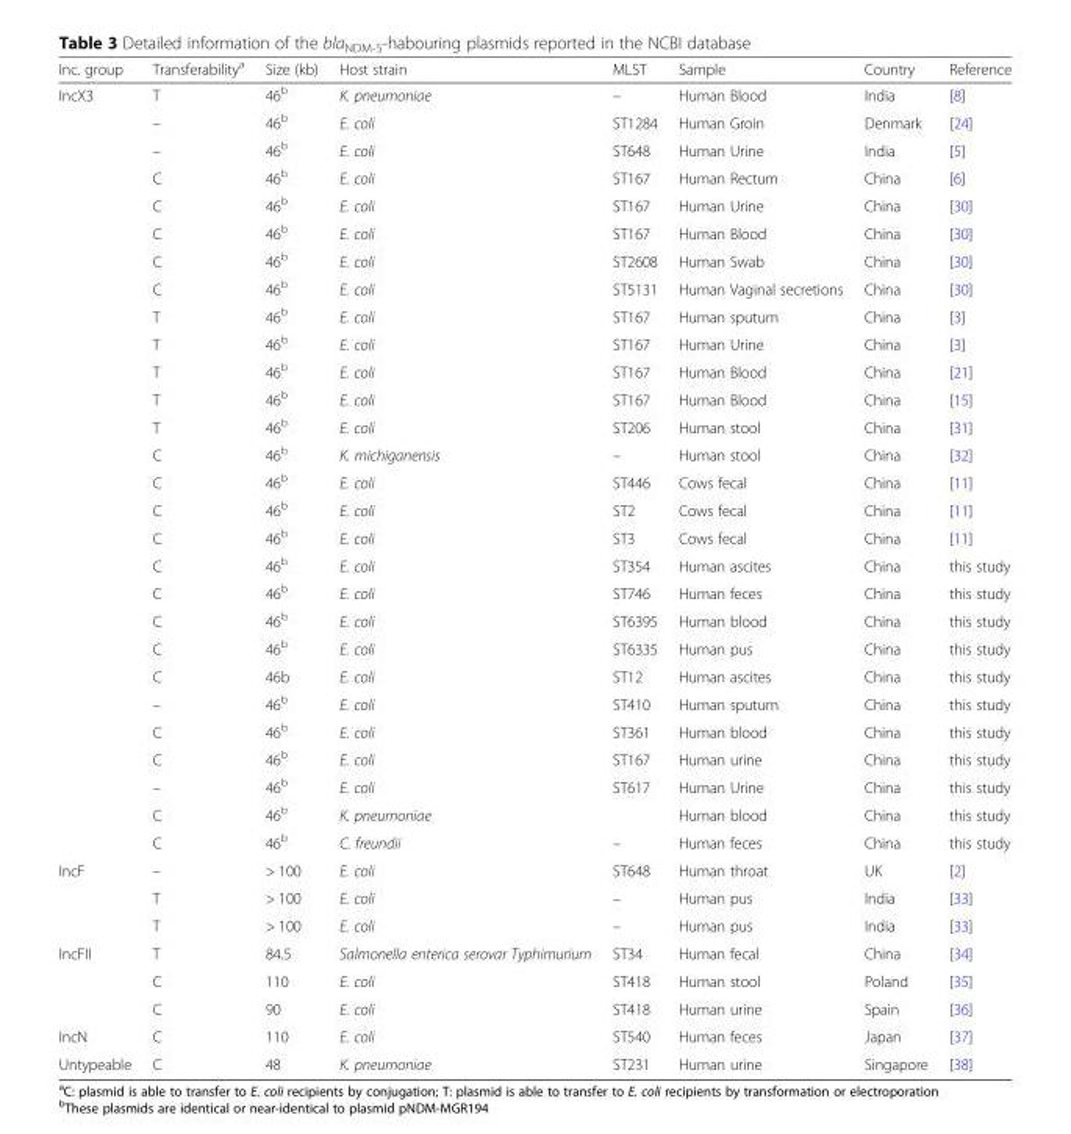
<table><thead><tr><td>Inc. group</td><td>Transferability<sup>a</sup></td><td>Size (kb)</td><td>Host strain</td><td>MLST</td><td>Sample</td><td>Country</td><td>Reference</td></tr></thead><tbody><tr><td rowspan="28">IncX3</td><td>T</td><td>46<sup>b</sup></td><td>K. pneumoniae</td><td>–</td><td>Human Blood</td><td>India</td><td>[8]</td></tr><tr><td>–</td><td>46<sup>b</sup></td><td>E. coli</td><td>ST1284</td><td>Human Groin</td><td>Denmark</td><td>[24]</td></tr><tr><td>–</td><td>46<sup>b</sup></td><td>E. coli</td><td>ST648</td><td>Human Urine</td><td>India</td><td>[5]</td></tr><tr><td>C</td><td>46<sup>b</sup></td><td>E. coli</td><td>ST167</td><td>Human Rectum</td><td>China</td><td>[6]</td></tr><tr><td>C</td><td>46<sup>b</sup></td><td>E. coli</td><td>ST167</td><td>Human Urine</td><td>China</td><td>[30]</td></tr><tr><td>C</td><td>46<sup>b</sup></td><td>E. coli</td><td>ST167</td><td>Human Blood</td><td>China</td><td>[30]</td></tr><tr><td>C</td><td>46<sup>b</sup></td><td>E. coli</td><td>ST2608</td><td>Human Swab</td><td>China</td><td>[30]</td></tr><tr><td>C</td><td>46<sup>b</sup></td><td>E. coli</td><td>ST5131</td><td>Human Vaginal secretions</td><td>China</td><td>[30]</td></tr><tr><td>T</td><td>46<sup>b</sup></td><td>E. coli</td><td>ST167</td><td>Human sputum</td><td>China</td><td>[3]</td></tr><tr><td>T</td><td>46<sup>b</sup></td><td>E. coli</td><td>ST167</td><td>Human Urine</td><td>China</td><td>[3]</td></tr><tr><td>T</td><td>46<sup>b</sup></td><td>E. coli</td><td>ST167</td><td>Human Blood</td><td>China</td><td>[21]</td></tr><tr><td>T</td><td>46<sup>b</sup></td><td>E. coli</td><td>ST167</td><td>Human Blood</td><td>China</td><td>[15]</td></tr><tr><td>T</td><td>46<sup>b</sup></td><td>E. coli</td><td>ST206</td><td>Human stool</td><td>China</td><td>[31]</td></tr><tr><td>C</td><td>46<sup>b</sup></td><td>K. michiganensis</td><td>–</td><td>Human stool</td><td>China</td><td>[32]</td></tr><tr><td>C</td><td>46<sup>b</sup></td><td>E. coli</td><td>ST446</td><td>Cows fecal</td><td>China</td><td>[11]</td></tr><tr><td>C</td><td>46<sup>b</sup></td><td>E. coli</td><td>ST2</td><td>Cows fecal</td><td>China</td><td>[11]</td></tr><tr><td>C</td><td>46<sup>b</sup></td><td>E. coli</td><td>ST3</td><td>Cows fecal</td><td>China</td><td>[11]</td></tr><tr><td>C</td><td>46<sup>b</sup></td><td>E. coli</td><td>ST354</td><td>Human ascites</td><td>China</td><td>this study</td></tr><tr><td>C</td><td>46<sup>b</sup></td><td>E. coli</td><td>ST746</td><td>Human feces</td><td>China</td><td>this study</td></tr><tr><td>C</td><td>46<sup>b</sup></td><td>E. coli</td><td>ST6395</td><td>Human blood</td><td>China</td><td>this study</td></tr><tr><td>C</td><td>46<sup>b</sup></td><td>E. coli</td><td>ST6335</td><td>Human pus</td><td>China</td><td>this study</td></tr><tr><td>C</td><td>46b</td><td>E. coli</td><td>ST12</td><td>Human ascites</td><td>China</td><td>this study</td></tr><tr><td>–</td><td>46<sup>b</sup></td><td>E. coli</td><td>ST410</td><td>Human sputum</td><td>China</td><td>this study</td></tr><tr><td>C</td><td>46<sup>b</sup></td><td>E. coli</td><td>ST361</td><td>Human blood</td><td>China</td><td>this study</td></tr><tr><td>C</td><td>46<sup>b</sup></td><td>E. coli</td><td>ST167</td><td>Human urine</td><td>China</td><td>this study</td></tr><tr><td>–</td><td>46<sup>b</sup></td><td>E. coli</td><td>ST617</td><td>Human Urine</td><td>China</td><td>this study</td></tr><tr><td>C</td><td>46<sup>b</sup></td><td>K. pneumoniae</td><td></td><td>Human blood</td><td>China</td><td>this study</td></tr><tr><td>C</td><td>46<sup>b</sup></td><td>C. freundii</td><td>–</td><td>Human feces</td><td>China</td><td>this study</td></tr><tr><td rowspan="3">IncF</td><td>–</td><td>&gt; 100</td><td>E. coli</td><td>ST648</td><td>Human throat</td><td>UK</td><td>[2]</td></tr><tr><td>T</td><td>&gt; 100</td><td>E. coli</td><td>–</td><td>Human pus</td><td>India</td><td>[33]</td></tr><tr><td>T</td><td>&gt; 100</td><td>E. coli</td><td>–</td><td>Human pus</td><td>India</td><td>[33]</td></tr><tr><td rowspan="3">IncFII</td><td>T</td><td>84.5</td><td>Salmonella enterica serovar Typhimurium</td><td>ST34</td><td>Human fecal</td><td>China</td><td>[34]</td></tr><tr><td>C</td><td>110</td><td>E. coli</td><td>ST418</td><td>Human stool</td><td>Poland</td><td>[35]</td></tr><tr><td>C</td><td>90</td><td>E. coli</td><td>ST418</td><td>Human urine</td><td>Spain</td><td>[36]</td></tr><tr><td>IncN</td><td>C</td><td>110</td><td>E. coli</td><td>ST540</td><td>Human feces</td><td>Japan</td><td>[37]</td></tr><tr><td>Untypeable</td><td>C</td><td>48</td><td>K. pneumoniae</td><td>ST231</td><td>Human urine</td><td>Singapore</td><td>[38]</td></tr></tbody></table>